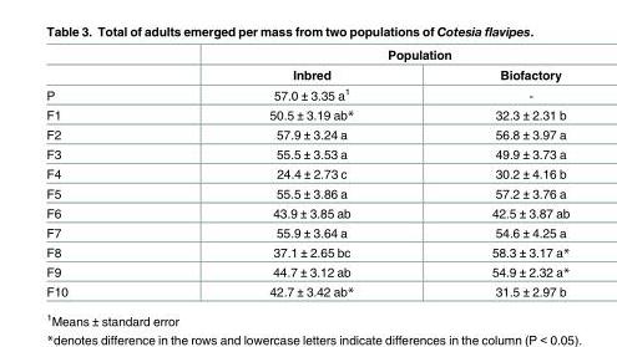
<table><thead><tr><td rowspan="2"></td><td colspan="2">Population</td></tr><tr><td>Inbred</td><td>Biofactory</td></tr></thead><tbody><tr><td>P</td><td>57.0 ± 3.35 a<sup>1</sup></td><td>-</td></tr><tr><td>F1</td><td>50.5 ± 3.19 ab*</td><td>32.3 ± 2.31 b</td></tr><tr><td>F2</td><td>57.9 ± 3.24 a</td><td>56.8 ± 3.97 a</td></tr><tr><td>F3</td><td>55.5 ± 3.53 a</td><td>49.9 ± 3.73 a</td></tr><tr><td>F4</td><td>24.4 ± 2.73 c</td><td>30.2 ± 4.16 b</td></tr><tr><td>F5</td><td>55.5 ± 3.86 a</td><td>57.2 ± 3.76 a</td></tr><tr><td>F6</td><td>43.9 ± 3.85 ab</td><td>42.5 ± 3.87 ab</td></tr><tr><td>F7</td><td>55.9 ± 3.64 a</td><td>54.6 ± 4.25 a</td></tr><tr><td>F8</td><td>37.1 ± 2.65 bc</td><td>58.3 ± 3.17 a*</td></tr><tr><td>F9</td><td>44.7 ± 3.12 ab</td><td>54.9 ± 2.32 a*</td></tr><tr><td>F10</td><td>42.7 ± 3.42 ab*</td><td>31.5 ± 2.97 b</td></tr></tbody></table>